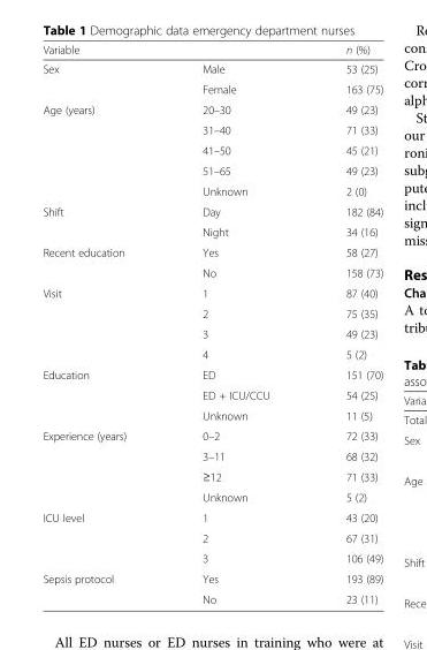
<table><thead><tr><td>Variable</td><td></td><td>n (%)</td></tr></thead><tbody><tr><td rowspan="2">Sex</td><td>Male</td><td>53 (25)</td></tr><tr><td>Female</td><td>163 (75)</td></tr><tr><td rowspan="5">Age (years)</td><td>20–30</td><td>49 (23)</td></tr><tr><td>31–40</td><td>71 (33)</td></tr><tr><td>41–50</td><td>45 (21)</td></tr><tr><td>51–65</td><td>49 (23)</td></tr><tr><td>Unknown</td><td>2 (0)</td></tr><tr><td rowspan="2">Shift</td><td>Day</td><td>182 (84)</td></tr><tr><td>Night</td><td>34 (16)</td></tr><tr><td rowspan="2">Recent education</td><td>Yes</td><td>58 (27)</td></tr><tr><td>No</td><td>158 (73)</td></tr><tr><td rowspan="4">Visit</td><td>1</td><td>87 (40)</td></tr><tr><td>2</td><td>75 (35)</td></tr><tr><td>3</td><td>49 (23)</td></tr><tr><td>4</td><td>5 (2)</td></tr><tr><td rowspan="3">Education</td><td>ED</td><td>151 (70)</td></tr><tr><td>ED + ICU/CCU</td><td>54 (25)</td></tr><tr><td>Unknown</td><td>11 (5)</td></tr><tr><td rowspan="4">Experience (years)</td><td>0–2</td><td>72 (33)</td></tr><tr><td>3–11</td><td>68 (32)</td></tr><tr><td>≥12</td><td>71 (33)</td></tr><tr><td>Unknown</td><td>5 (2)</td></tr><tr><td rowspan="3">ICU level</td><td>1</td><td>43 (20)</td></tr><tr><td>2</td><td>67 (31)</td></tr><tr><td>3</td><td>106 (49)</td></tr><tr><td rowspan="2">Sepsis protocol</td><td>Yes</td><td>193 (89)</td></tr><tr><td>No</td><td>23 (11)</td></tr></tbody></table>